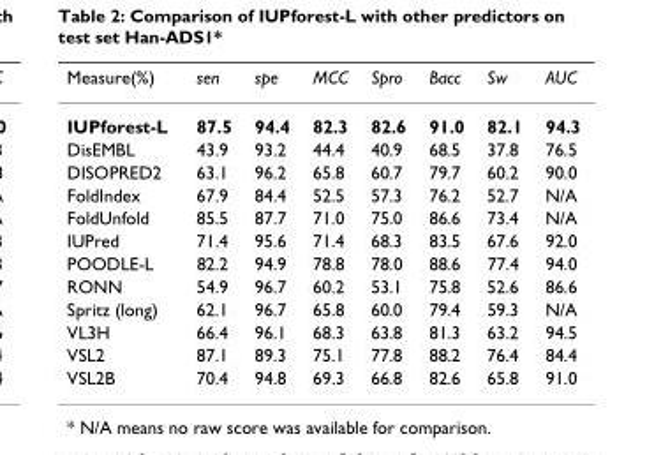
<table><thead><tr><td>Measure(%)</td><td>sen</td><td>spe</td><td>MCC</td><td>Spro</td><td>Bacc</td><td>Sw</td><td>AUC</td></tr></thead><tbody><tr><td>IUPforest-L</td><td>87.5</td><td>94.4</td><td>82.3</td><td>82.6</td><td>91.0</td><td>82.1</td><td>94.3</td></tr><tr><td>DisEMBL</td><td>43.9</td><td>93.2</td><td>44.4</td><td>40.9</td><td>68.5</td><td>37.8</td><td>76.5</td></tr><tr><td>DISOPRED2</td><td>63.1</td><td>96.2</td><td>65.8</td><td>60.7</td><td>79.7</td><td>60.2</td><td>90.0</td></tr><tr><td>FoldIndex</td><td>67.9</td><td>84.4</td><td>52.5</td><td>57.3</td><td>76.2</td><td>52.7</td><td>N/A</td></tr><tr><td>FoldUnfold</td><td>85.5</td><td>87.7</td><td>71.0</td><td>75.0</td><td>86.6</td><td>73.4</td><td>N/A</td></tr><tr><td>IUPred</td><td>71.4</td><td>95.6</td><td>71.4</td><td>68.3</td><td>83.5</td><td>67.6</td><td>92.0</td></tr><tr><td>POODLE-L</td><td>82.2</td><td>94.9</td><td>78.8</td><td>78.0</td><td>88.6</td><td>77.4</td><td>94.0</td></tr><tr><td>RONN</td><td>54.9</td><td>96.7</td><td>60.2</td><td>53.1</td><td>75.8</td><td>52.6</td><td>86.6</td></tr><tr><td>Spritz (long)</td><td>62.1</td><td>96.7</td><td>65.8</td><td>60.0</td><td>79.4</td><td>59.3</td><td>N/A</td></tr><tr><td>VL3H</td><td>66.4</td><td>96.1</td><td>68.3</td><td>63.8</td><td>81.3</td><td>63.2</td><td>94.5</td></tr><tr><td>VSL2</td><td>87.1</td><td>89.3</td><td>75.1</td><td>77.8</td><td>88.2</td><td>76.4</td><td>84.4</td></tr><tr><td>VSL2B</td><td>70.4</td><td>94.8</td><td>69.3</td><td>66.8</td><td>82.6</td><td>65.8</td><td>91.0</td></tr></tbody></table>